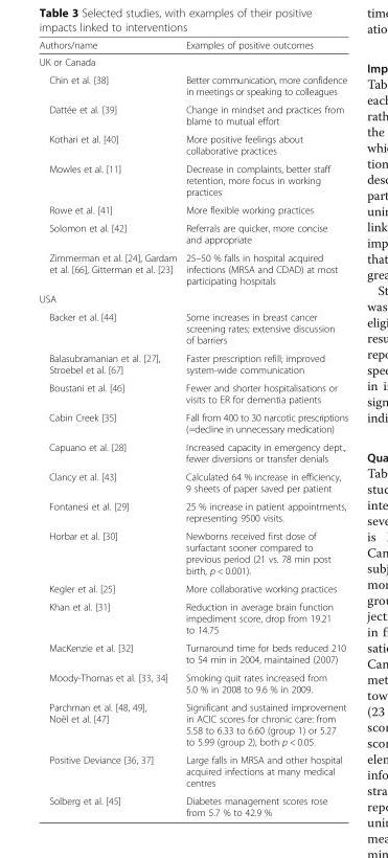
<table><thead><tr><td>Authors/name</td><td>Examples of positive outcomes</td></tr></thead><tbody><tr><td colspan="2">UK or Canada</td></tr><tr><td>Chin et al. [38]</td><td>Better communication, more confidence in meetings or speaking to colleagues</td></tr><tr><td>Dattée et al. [39]</td><td>Change in mindset and practices from blame to mutual effort</td></tr><tr><td>Kothari et al. [40]</td><td>More positive feelings about collaborative practices</td></tr><tr><td>Mowles et al. [11]</td><td>Decrease in complaints, better staff retention, more focus in working practices</td></tr><tr><td>Rowe et al. [41]</td><td>More flexible working practices</td></tr><tr><td>Solomon et al. [42]</td><td>Referrals are quicker, more concise and appropriate</td></tr><tr><td>Zimmerman et al. [24], Gardam et al. [66], Gitterman et al. [23]</td><td>25–50 % falls in hospital acquired infections (MRSA and CDAD) at most participating hospitals</td></tr><tr><td colspan="2">USA</td></tr><tr><td>Backer et al. [44]</td><td>Some increases in breast cancer screening rates; extensive discussion of barriers</td></tr><tr><td>Balasubramanian et al. [27], Stroebel et al. [67]</td><td>Faster prescription refill; improved system-wide communication</td></tr><tr><td>Boustani et al. [46]</td><td>Fewer and shorter hospitalisations or visits to ER for dementia patients</td></tr><tr><td>Cabin Creek [35]</td><td>Fall from 400 to 30 narcotic prescriptions (=decline in unnecessary medication)</td></tr><tr><td>Capuano et al. [28]</td><td>Increased capacity in emergency dept., fewer diversions or transfer denials</td></tr><tr><td>Clancy et al. [43]</td><td>Calculated 64 % increase in efficiency, 9 sheets of paper saved per patient</td></tr><tr><td>Fontanesi et al. [29]</td><td>25 % increase in patient appointments, representing 9500 visits.</td></tr><tr><td>Horbar et al. [30]</td><td>Newborns received first dose of surfactant sooner compared to previous period (21 vs. 78 min post birth, p &lt; 0.001).</td></tr><tr><td>Kegler et al. [25]</td><td>More collaborative working practices</td></tr><tr><td>Khan et al. [31]</td><td>Reduction in average brain function impediment score, drop from 19.21 to 14.75</td></tr><tr><td>MacKenzie et al. [32]</td><td>Turnaround time for beds reduced 210 to 54 min in 2004, maintained (2007)</td></tr><tr><td>Moody-Thomas et al. [33, 34]</td><td>Smoking quit rates increased from 5.0 % in 2008 to 9.6 % in 2009.</td></tr><tr><td>Parchman et al. [48, 49], Noël et al. [47]</td><td>Significant and sustained improvement in ACIC scores for chronic care: from 5.58 to 6.33 to 6.60 (group 1) or 5.27 to 5.99 (group 2), both p &lt; 0.05.</td></tr><tr><td>Positive Deviance [36, 37]</td><td>Large falls in MRSA and other hospital acquired infections at many medical centres</td></tr><tr><td>Solberg et al. [45]</td><td>Diabetes management scores rose from 5.7 % to 42.9 %</td></tr></tbody></table>